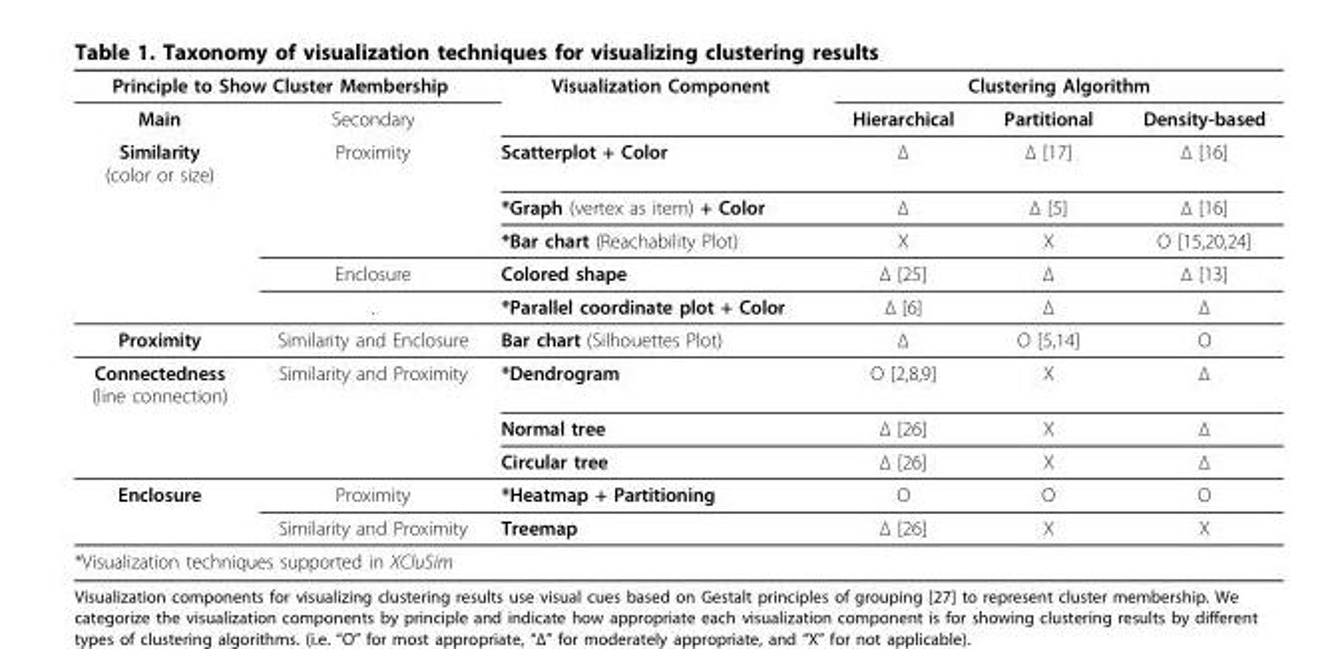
<table><thead><tr><td colspan="2">Principle to Show Cluster Membership</td><td rowspan="7">Visualization Component Scatterplot + Color *Graph (vertex as item) + Color *Bar chart (Reachability Plot) Colored shape *Parallel coordinate plot + Color</td><td colspan="3">Clustering Algorithm</td></tr><tr><td rowspan="6">Main Similarity (color or size)</td><td rowspan="6">Secondary Proximity Enclosure .</td><td rowspan="6">Hierarchical Δ Δ X Δ [25] Δ [6]</td><td rowspan="6">Partitional Δ [17] Δ [5] X Δ Δ</td><td rowspan="6">Density-based Δ [16] Δ [16] O [15,20,24] Δ [13] Δ</td></tr><tr></tr><tr></tr><tr></tr><tr></tr><tr></tr></thead><tbody><tr><td>Proximity</td><td>Similarity and Enclosure</td><td>Bar chart (Silhouettes Plot)</td><td>Δ</td><td>O [5,14]</td><td>O</td></tr><tr><td rowspan="3">Connectedness (line connection)</td><td>Similarity and Proximity</td><td>*Dendrogram</td><td>O [2,8,9]</td><td>X</td><td>Δ</td></tr><tr><td></td><td>Normal tree</td><td>Δ [26]</td><td>X</td><td>Δ</td></tr><tr><td></td><td>Circular tree</td><td>Δ [26]</td><td>X</td><td>Δ</td></tr><tr><td rowspan="2">Enclosure</td><td>Proximity</td><td>*Heatmap + Partitioning</td><td>O</td><td>O</td><td>O</td></tr><tr><td>Similarity and Proximity</td><td>Treemap</td><td>Δ [26]</td><td>X</td><td>X</td></tr><tr><td colspan="6">*Visualization techniques supported in XCluSim</td></tr></tbody></table>